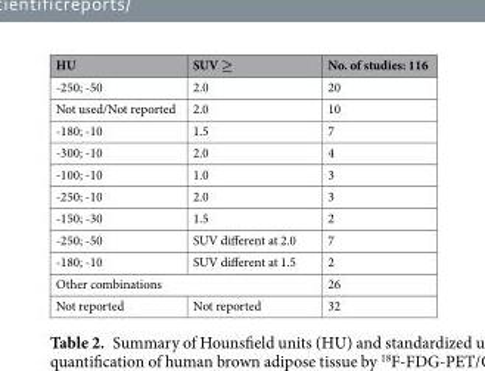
<table><thead><tr><td>HU</td><td>SUV ≥</td><td>No. of studies: 116</td></tr></thead><tbody><tr><td>-250; -50</td><td>2.0</td><td>20</td></tr><tr><td>Not used/Not reported</td><td>2.0</td><td>10</td></tr><tr><td>-180; -10</td><td>1.5</td><td>7</td></tr><tr><td>-300; -10</td><td>2.0</td><td>4</td></tr><tr><td>-100; -10</td><td>1.0</td><td>3</td></tr><tr><td>-250; -10</td><td>2.0</td><td>3</td></tr><tr><td>-150; -30</td><td>1.5</td><td>2</td></tr><tr><td>-250; -50</td><td>SUV different at 2.0</td><td>7</td></tr><tr><td>-180; -10</td><td>SUV different at 1.5</td><td>2</td></tr><tr><td colspan="2">Other combinations</td><td>26</td></tr><tr><td>Not reported</td><td>Not reported</td><td>32</td></tr></tbody></table>